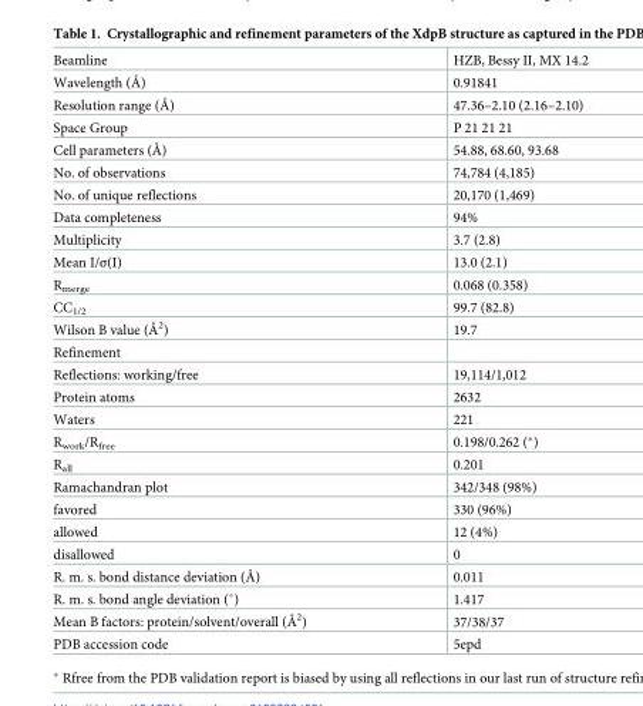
<table><tbody><tr><td>Beamline</td><td>HZB, Bessy II, MX 14.2</td></tr><tr><td>Wavelength (Å)</td><td>0.91841</td></tr><tr><td>Resolution range (Å)</td><td>47.36–2.10 (2.16–2.10)</td></tr><tr><td>Space Group</td><td>P 21 21 21</td></tr><tr><td>Cell parameters (Å)</td><td>54.88, 68.60, 93.68</td></tr><tr><td>No. of observations</td><td>74,784 (4,185)</td></tr><tr><td>No. of unique reflections</td><td>20,170 (1,469)</td></tr><tr><td>Data completeness</td><td>94%</td></tr><tr><td>Multiplicity</td><td>3.7 (2.8)</td></tr><tr><td>Mean I/σ(I)</td><td>13.0 (2.1)</td></tr><tr><td>R<sub>merge</sub></td><td>0.068 (0.358)</td></tr><tr><td>CC<sub>1/2</sub></td><td>99.7 (82.8)</td></tr><tr><td>Wilson B value (Å<sup>2</sup>)</td><td>19.7</td></tr><tr><td colspan="2">Refinement</td></tr><tr><td>Reflections: working/free</td><td>19,114/1,012</td></tr><tr><td>Protein atoms</td><td>2632</td></tr><tr><td>Waters</td><td>221</td></tr><tr><td>R<sub>work</sub>/R<sub>free</sub></td><td>0.198/0.262 (*)</td></tr><tr><td>R<sub>all</sub></td><td>0.201</td></tr><tr><td>Ramachandran plot</td><td>342/348 (98%)</td></tr><tr><td>favored</td><td>330 (96%)</td></tr><tr><td>allowed</td><td>12 (4%)</td></tr><tr><td>disallowed</td><td>0</td></tr><tr><td>R. m. s. bond distance deviation (Å)</td><td>0.011</td></tr><tr><td>R. m. s. bond angle deviation (˚)</td><td>1.417</td></tr><tr><td>Mean B factors: protein/solvent/overall (Å<sup>2</sup>)</td><td>37/38/37</td></tr><tr><td>PDB accession code</td><td>5epd</td></tr></tbody></table>